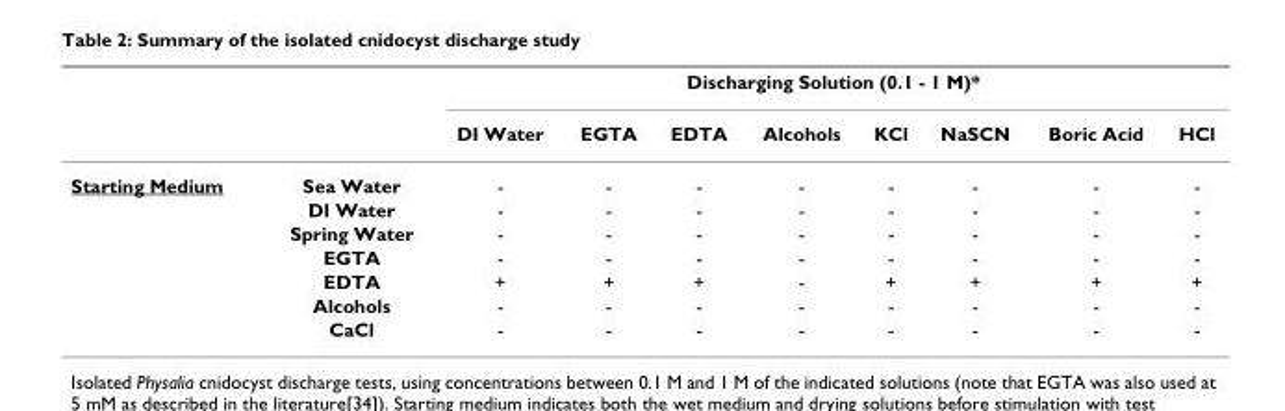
<table><thead><tr><td rowspan="2"></td><td rowspan="2"></td><td colspan="8">Discharging Solution (0.1 - 1 M)*</td></tr><tr><td>DI Water</td><td>EGTA</td><td>EDTA</td><td>Alcohols</td><td>KCl</td><td>NaSCN</td><td>Boric Acid</td><td>HCl</td></tr></thead><tbody><tr><td rowspan="7">Starting Medium</td><td>Sea Water</td><td>-</td><td>-</td><td>-</td><td>-</td><td>-</td><td>-</td><td>-</td><td>-</td></tr><tr><td>DI Water</td><td>-</td><td>-</td><td>-</td><td>-</td><td>-</td><td>-</td><td>-</td><td>-</td></tr><tr><td>Spring Water</td><td>-</td><td>-</td><td>-</td><td>-</td><td>-</td><td>-</td><td>-</td><td>-</td></tr><tr><td>EGTA</td><td>-</td><td>-</td><td>-</td><td>-</td><td>-</td><td>-</td><td>-</td><td>-</td></tr><tr><td>EDTA</td><td>+</td><td>+</td><td>+</td><td>-</td><td>+</td><td>+</td><td>+</td><td>+</td></tr><tr><td>Alcohols</td><td>-</td><td>-</td><td>-</td><td>-</td><td>-</td><td>-</td><td>-</td><td>-</td></tr><tr><td>CaCl</td><td>-</td><td>-</td><td>-</td><td>-</td><td>-</td><td>-</td><td>-</td><td>-</td></tr></tbody></table>